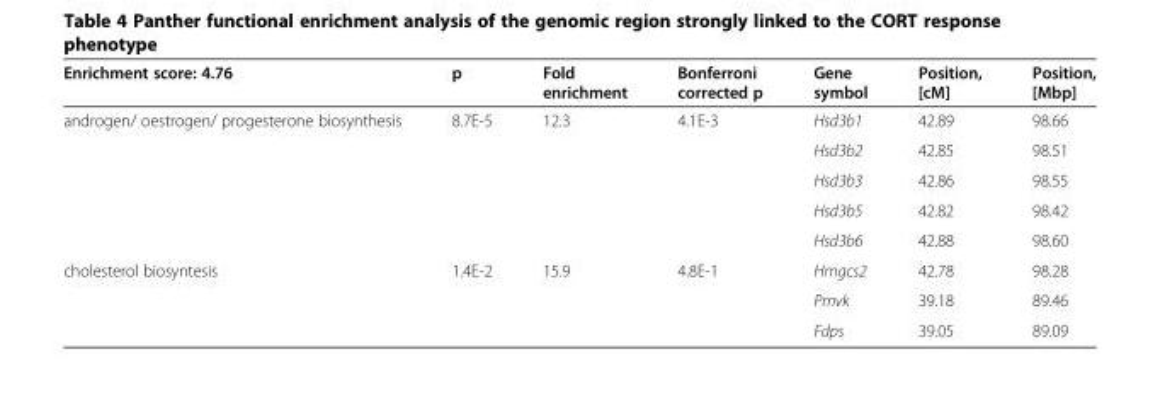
<table><thead><tr><td>Enrichment score: 4.76</td><td>p</td><td>Fold enrichment</td><td>Bonferroni corrected p</td><td>Gene symbol</td><td>Position, [cM]</td><td>Position, [Mbp]</td></tr></thead><tbody><tr><td rowspan="5">androgen/ oestrogen/ progesterone biosynthesis</td><td>8.7E-5</td><td>12.3</td><td>4.1E-3</td><td>Hsd3b1</td><td>42.89</td><td>98.66</td></tr><tr><td></td><td></td><td></td><td>Hsd3b2</td><td>42.85</td><td>98.51</td></tr><tr><td></td><td></td><td></td><td>Hsd3b3</td><td>42.86</td><td>98.55</td></tr><tr><td></td><td></td><td></td><td>Hsd3b5</td><td>42.82</td><td>98.42</td></tr><tr><td></td><td></td><td></td><td>Hsd3b6</td><td>42.88</td><td>98.60</td></tr><tr><td rowspan="3">cholesterol biosyntesis</td><td>1.4E-2</td><td>15.9</td><td>4.8E-1</td><td>Hmgcs2</td><td>42.78</td><td>98.28</td></tr><tr><td></td><td></td><td></td><td>Pmvk</td><td>39.18</td><td>89.46</td></tr><tr><td></td><td></td><td></td><td>Fdps</td><td>39.05</td><td>89.09</td></tr></tbody></table>